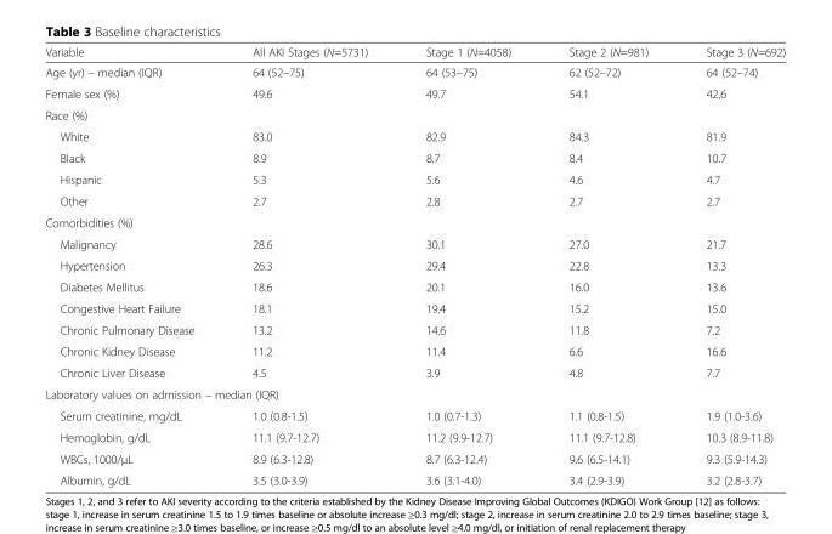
<table><thead><tr><td>Variable</td><td>All AKI Stages (N=5731)</td><td>Stage 1 (N=4058)</td><td>Stage 2 (N=981)</td><td>Stage 3 (N=692)</td></tr></thead><tbody><tr><td>Age (yr) – median (IQR)</td><td>64 (52–75)</td><td>64 (53–75)</td><td>62 (52–72)</td><td>64 (52–74)</td></tr><tr><td>Female sex (%)</td><td>49.6</td><td>49.7</td><td>54.1</td><td>42.6</td></tr><tr><td colspan="5">Race (%)</td></tr><tr><td>White</td><td>83.0</td><td>82.9</td><td>84.3</td><td>81.9</td></tr><tr><td>Black</td><td>8.9</td><td>8.7</td><td>8.4</td><td>10.7</td></tr><tr><td>Hispanic</td><td>5.3</td><td>5.6</td><td>4.6</td><td>4.7</td></tr><tr><td>Other</td><td>2.7</td><td>2.8</td><td>2.7</td><td>2.7</td></tr><tr><td colspan="5">Comorbidities (%)</td></tr><tr><td>Malignancy</td><td>28.6</td><td>30.1</td><td>27.0</td><td>21.7</td></tr><tr><td>Hypertension</td><td>26.3</td><td>29.4</td><td>22.8</td><td>13.3</td></tr><tr><td>Diabetes Mellitus</td><td>18.6</td><td>20.1</td><td>16.0</td><td>13.6</td></tr><tr><td>Congestive Heart Failure</td><td>18.1</td><td>19.4</td><td>15.2</td><td>15.0</td></tr><tr><td>Chronic Pulmonary Disease</td><td>13.2</td><td>14.6</td><td>11.8</td><td>7.2</td></tr><tr><td>Chronic Kidney Disease</td><td>11.2</td><td>11.4</td><td>6.6</td><td>16.6</td></tr><tr><td>Chronic Liver Disease</td><td>4.5</td><td>3.9</td><td>4.8</td><td>7.7</td></tr><tr><td colspan="5">Laboratory values on admission – median (IQR)</td></tr><tr><td>Serum creatinine, mg/dL</td><td>1.0 (0.8-1.5)</td><td>1.0 (0.7-1.3)</td><td>1.1 (0.8-1.5)</td><td>1.9 (1.0-3.6)</td></tr><tr><td>Hemoglobin, g/dL</td><td>11.1 (9.7-12.7)</td><td>11.2 (9.9-12.7)</td><td>11.1 (9.7-12.8)</td><td>10.3 (8.9-11.8)</td></tr><tr><td>WBCs, 1000/μL</td><td>8.9 (6.3-12.8)</td><td>8.7 (6.3-12.4)</td><td>9.6 (6.5-14.1)</td><td>9.3 (5.9-14.3)</td></tr><tr><td>Albumin, g/dL</td><td>3.5 (3.0-3.9)</td><td>3.6 (3.1-4.0)</td><td>3.4 (2.9-3.9)</td><td>3.2 (2.8-3.7)</td></tr></tbody></table>